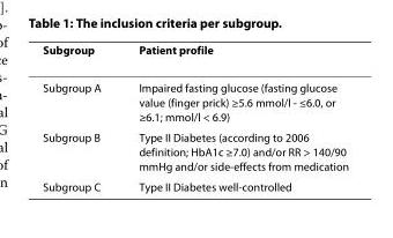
<table><thead><tr><td>Subgroup</td><td>Patient profile</td></tr></thead><tbody><tr><td>Subgroup A</td><td>Impaired fasting glucose (fasting glucose value (finger prick) ≥5.6 mmol/l - ≤6.0, or ≥6.1; mmol/l &lt; 6.9)</td></tr><tr><td>Subgroup B</td><td>Type II Diabetes (according to 2006 definition; HbA1c ≥7.0) and/or RR &gt; 140/90 mmHg and/or side-effects from medication</td></tr><tr><td>Subgroup C</td><td>Type II Diabetes well-controlled</td></tr></tbody></table>